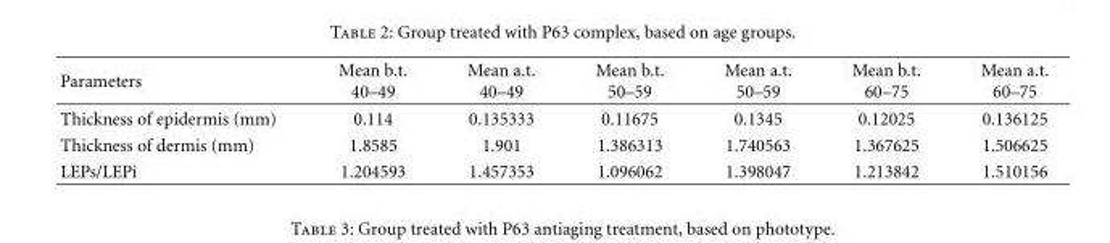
<table><thead><tr><td>Parameters</td><td>Mean b.t. 40–49</td><td>Mean a.t. 40–49</td><td>Mean b.t. 50–59</td><td>Mean a.t. 50–59</td><td>Mean b.t. 60–75</td><td>Mean a.t. 60–75</td></tr></thead><tbody><tr><td>Thickness of epidermis (mm)</td><td>0.114</td><td>0.135333</td><td>0.11675</td><td>0.1345</td><td>0.12025</td><td>0.136125</td></tr><tr><td>Thickness of dermis (mm)</td><td>1.8585</td><td>1.901</td><td>1.386313</td><td>1.740563</td><td>1.367625</td><td>1.506625</td></tr><tr><td>LEPs/LEPi</td><td>1.204593</td><td>1.457353</td><td>1.096062</td><td>1.398047</td><td>1.213842</td><td>1.510156</td></tr></tbody></table>